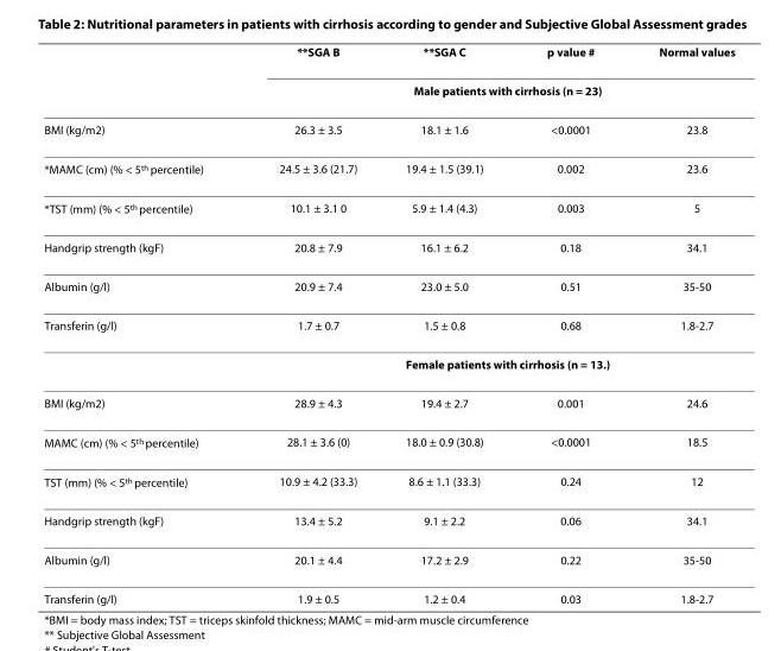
<table><thead><tr><td rowspan="2"></td><td>**SGA B</td><td>**SGA C</td><td>p value #</td><td>Normal values</td></tr><tr><td colspan="4">Male patients with cirrhosis (n = 23)</td></tr></thead><tbody><tr><td>BMI (kg/m2)</td><td>26.3 ± 3.5</td><td>18.1 ± 1.6</td><td>&lt;0.0001</td><td>23.8</td></tr><tr><td>*MAMC (cm) (% &lt; 5<sup>th</sup> percentile)</td><td>24.5 ± 3.6 (21.7)</td><td>19.4 ± 1.5 (39.1)</td><td>0.002</td><td>23.6</td></tr><tr><td>*TST (mm) (% &lt; 5<sup>th</sup> percentile)</td><td>10.1 ± 3.1 0</td><td>5.9 ± 1.4 (4.3)</td><td>0.003</td><td>5</td></tr><tr><td>Handgrip strength (kgF)</td><td>20.8 ± 7.9</td><td>16.1 ± 6.2</td><td>0.18</td><td>34.1</td></tr><tr><td>Albumin (g/l)</td><td>20.9 ± 7.4</td><td>23.0 ± 5.0</td><td>0.51</td><td>35-50</td></tr><tr><td rowspan="2">Transferin (g/l)</td><td>1.7 ± 0.7</td><td>1.5 ± 0.8</td><td>0.68</td><td>1.8-2.7</td></tr><tr><td colspan="4">Female patients with cirrhosis (n = 13.)</td></tr><tr><td>BMI (kg/m2)</td><td>28.9 ± 4.3</td><td>19.4 ± 2.7</td><td>0.001</td><td>24.6</td></tr><tr><td>MAMC (cm) (% &lt; 5<sup>th</sup> percentile)</td><td>28.1 ± 3.6 (0)</td><td>18.0 ± 0.9 (30.8)</td><td>&lt;0.0001</td><td>18.5</td></tr><tr><td>TST (mm) (% &lt; 5<sup>th</sup> percentile)</td><td>10.9 ± 4.2 (33.3)</td><td>8.6 ± 1.1 (33.3)</td><td>0.24</td><td>12</td></tr><tr><td>Handgrip strength (kgF)</td><td>13.4 ± 5.2</td><td>9.1 ± 2.2</td><td>0.06</td><td>34.1</td></tr><tr><td>Albumin (g/l)</td><td>20.1 ± 4.4</td><td>17.2 ± 2.9</td><td>0.22</td><td>35-50</td></tr><tr><td>Transferin (g/l)</td><td>1.9 ± 0.5</td><td>1.2 ± 0.4</td><td>0.03</td><td>1.8-2.7</td></tr></tbody></table>